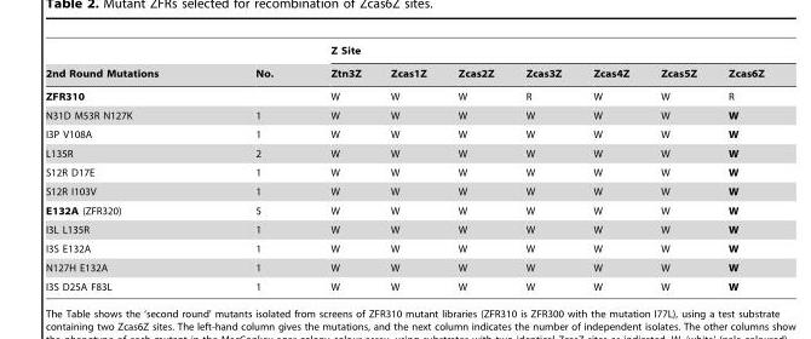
<table><thead><tr><td rowspan="2">2nd Round Mutations</td><td rowspan="2">No.</td><td colspan="7">Z Site</td></tr><tr><td>Ztn3Z</td><td>Zcas1Z</td><td>Zcas2Z</td><td>Zcas3Z</td><td>Zcas4Z</td><td>Zcas5Z</td><td>Zcas6Z</td></tr></thead><tbody><tr><td>ZFR310</td><td></td><td>W</td><td>W</td><td>W</td><td>R</td><td>W</td><td>W</td><td>R</td></tr><tr><td>N31D M53R N127K</td><td>1</td><td>W</td><td>W</td><td>W</td><td>W</td><td>W</td><td>W</td><td>W</td></tr><tr><td>I3P V108A</td><td>1</td><td>W</td><td>W</td><td>W</td><td>W</td><td>W</td><td>W</td><td>W</td></tr><tr><td>L135R</td><td>2</td><td>W</td><td>W</td><td>W</td><td>W</td><td>W</td><td>W</td><td>W</td></tr><tr><td>S12R D17E</td><td>1</td><td>W</td><td>W</td><td>W</td><td>W</td><td>W</td><td>W</td><td>W</td></tr><tr><td>S12R I103V</td><td>1</td><td>W</td><td>W</td><td>W</td><td>W</td><td>W</td><td>W</td><td>W</td></tr><tr><td>E132A (ZFR320)</td><td>5</td><td>W</td><td>W</td><td>W</td><td>W</td><td>W</td><td>W</td><td>W</td></tr><tr><td>I3L L135R</td><td>1</td><td>W</td><td>W</td><td>W</td><td>W</td><td>W</td><td>W</td><td>W</td></tr><tr><td>I3S E132A</td><td>1</td><td>W</td><td>W</td><td>W</td><td>W</td><td>W</td><td>W</td><td>W</td></tr><tr><td>N127H E132A</td><td>1</td><td>W</td><td>W</td><td>W</td><td>W</td><td>W</td><td>W</td><td>W</td></tr><tr><td>I3S D25A F83L</td><td>1</td><td>W</td><td>W</td><td>W</td><td>W</td><td>W</td><td>W</td><td>W</td></tr></tbody></table>